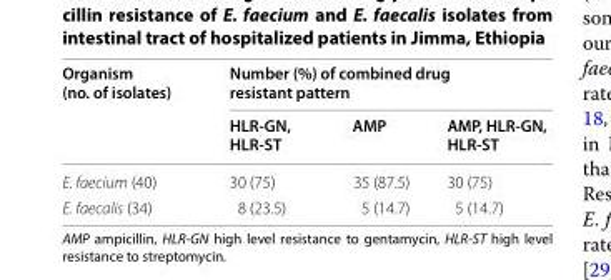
<table><thead><tr><td rowspan="2">Organism (no. of isolates)</td><td colspan="3">Number (%) of combined drug resistant pattern</td></tr><tr><td>HLR-GN, HLR-ST</td><td>AMP</td><td>AMP, HLR-GN, HLR-ST</td></tr></thead><tbody><tr><td>E. faecium (40)</td><td>30 (75)</td><td>35 (87.5)</td><td>30 (75)</td></tr><tr><td>E. faecalis (34)</td><td>8 (23.5)</td><td>5 (14.7)</td><td>5 (14.7)</td></tr></tbody></table>